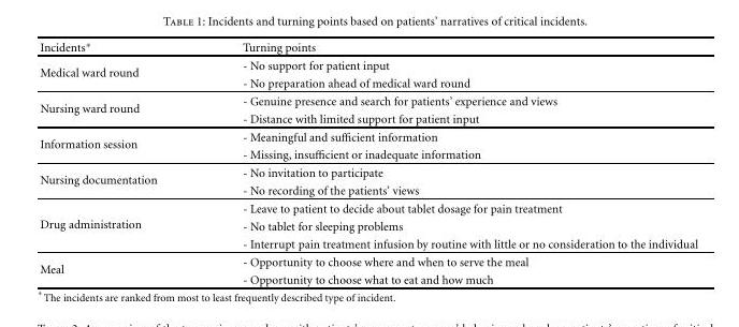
<table><thead><tr><td>Incidents∗</td><td>Turning points</td></tr></thead><tbody><tr><td rowspan="2">Medical ward round</td><td>- No support for patient input</td></tr><tr><td>- No preparation ahead of medical ward round</td></tr><tr><td rowspan="2">Nursing ward round</td><td>- Genuine presence and search for patients’ experience and views</td></tr><tr><td>- Distance with limited support for patient input</td></tr><tr><td rowspan="2">Information session</td><td>- Meaningful and sufficient information</td></tr><tr><td>- Missing, insufficient or inadequate information</td></tr><tr><td rowspan="2">Nursing documentation</td><td>- No invitation to participate</td></tr><tr><td>- No recording of the patients’ views</td></tr><tr><td rowspan="3">Drug administration</td><td>- Leave to patient to decide about tablet dosage for pain treatment</td></tr><tr><td>- No tablet for sleeping problems</td></tr><tr><td>- Interrupt pain treatment infusion by routine with little or no consideration to the individual</td></tr><tr><td rowspan="2">Meal</td><td>- Opportunity to choose where and when to serve the meal</td></tr><tr><td>- Opportunity to choose what to eat and how much</td></tr></tbody></table>